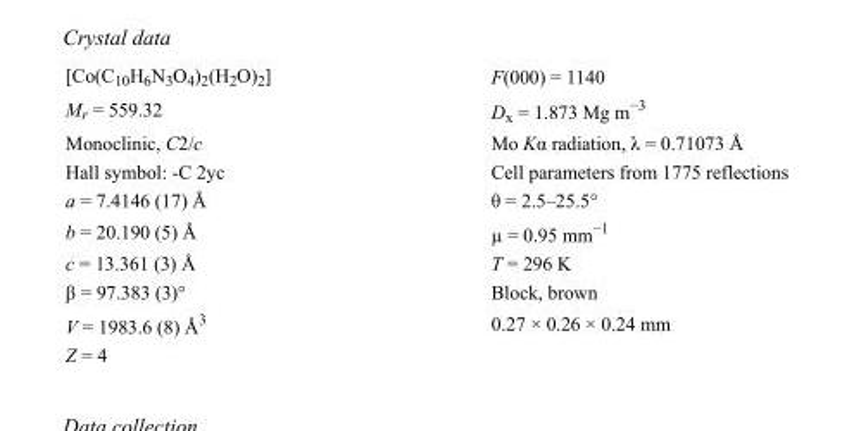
<table><tbody><tr><td>[Co(C<sub>10</sub>H<sub>6</sub>N<sub>3</sub>O<sub>4</sub>)<sub>2</sub>(H<sub>2</sub>O)<sub>2</sub>]</td><td>F(000) = 1140</td></tr><tr><td>M<sub>r</sub> = 559.32</td><td>D<sub>x</sub> = 1.873 Mg m<sup>−3</sup></td></tr><tr><td>Monoclinic, C2/c</td><td>Mo Kα radiation, λ = 0.71073 Å</td></tr><tr><td>Hall symbol: -C 2yc</td><td>Cell parameters from 1775 reflections</td></tr><tr><td>a = 7.4146 (17) Å</td><td>θ = 2.5–25.5°</td></tr><tr><td>b = 20.190 (5) Å</td><td>µ = 0.95 mm<sup>−1</sup></td></tr><tr><td>c = 13.361 (3) Å</td><td>T = 296 K</td></tr><tr><td>β = 97.383 (3)°</td><td>Block, brown</td></tr><tr><td>V = 1983.6 (8) Å<sup>3</sup></td><td>0.27 × 0.26 × 0.24 mm</td></tr><tr><td>Z = 4</td><td></td></tr></tbody></table>